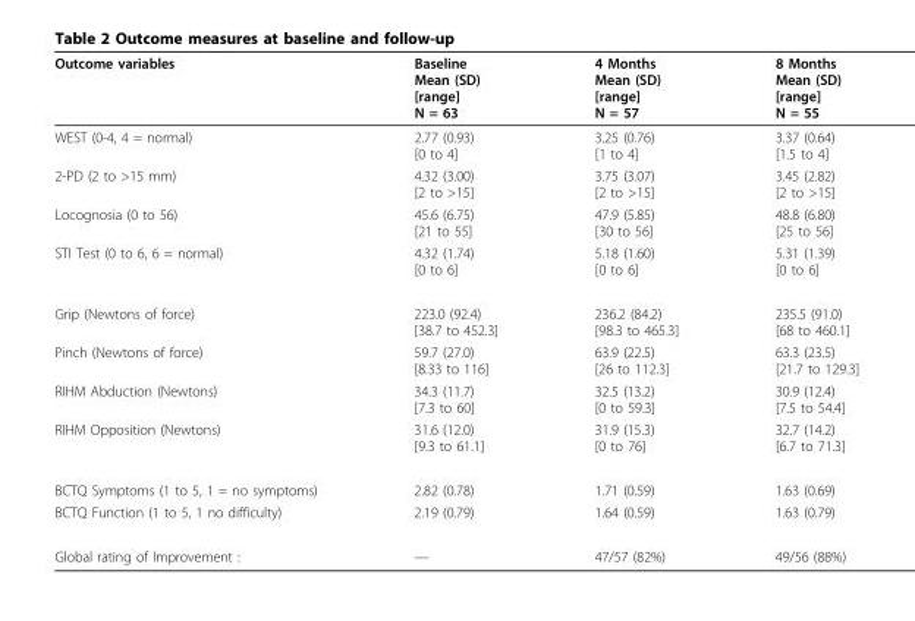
<table><thead><tr><td>Outcome variables</td><td>Baseline Mean (SD) [range] N = 63</td><td>4 Months Mean (SD) [range] N = 57</td><td>8 Months Mean (SD) [range] N = 55</td></tr></thead><tbody><tr><td>WEST (0-4, 4 = normal)</td><td>2.77 (0.93) [0 to 4]</td><td>3.25 (0.76) [1 to 4]</td><td>3.37 (0.64) [1.5 to 4]</td></tr><tr><td>2-PD (2 to &gt;15 mm)</td><td>4.32 (3.00) [2 to &gt;15]</td><td>3.75 (3.07) [2 to &gt;15]</td><td>3.45 (2.82) [2 to &gt;15]</td></tr><tr><td>Locognosia (0 to 56)</td><td>45.6 (6.75) [21 to 55]</td><td>47.9 (5.85) [30 to 56]</td><td>48.8 (6.80) [25 to 56]</td></tr><tr><td>STI Test (0 to 6, 6 = normal)</td><td>4.32 (1.74) [0 to 6]</td><td>5.18 (1.60) [0 to 6]</td><td>5.31 (1.39) [0 to 6]</td></tr><tr><td>Grip (Newtons of force)</td><td>223.0 (92.4) [38.7 to 452.3]</td><td>236.2 (84.2) [98.3 to 465.3]</td><td>235.5 (91.0) [68 to 460.1]</td></tr><tr><td>Pinch (Newtons of force)</td><td>59.7 (27.0) [8.33 to 116]</td><td>63.9 (22.5) [26 to 112.3]</td><td>63.3 (23.5) [21.7 to 129.3]</td></tr><tr><td>RIHM Abduction (Newtons)</td><td>34.3 (11.7) [7.3 to 60]</td><td>32.5 (13.2) [0 to 59.3]</td><td>30.9 (12.4) [7.5 to 54.4]</td></tr><tr><td>RIHM Opposition (Newtons)</td><td>31.6 (12.0) [9.3 to 61.1]</td><td>31.9 (15.3) [0 to 76]</td><td>32.7 (14.2) [6.7 to 71.3]</td></tr><tr><td>BCTQ Symptoms (1 to 5, 1 = no symptoms)</td><td>2.82 (0.78)</td><td>1.71 (0.59)</td><td>1.63 (0.69)</td></tr><tr><td>BCTQ Function (1 to 5, 1 no difficulty)</td><td>2.19 (0.79)</td><td>1.64 (0.59)</td><td>1.63 (0.79)</td></tr><tr><td>Global rating of Improvement :</td><td>—</td><td>47/57 (82%)</td><td>49/56 (88%)</td></tr></tbody></table>